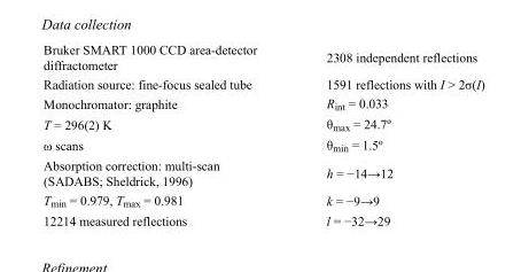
<table><tbody><tr><td>Bruker SMART 1000 CCD area-detector diffractometer</td><td>2308 independent reflections</td></tr><tr><td>Radiation source: fine-focus sealed tube</td><td>1591 reflections with I &gt; 2σ(I)</td></tr><tr><td>Monochromator: graphite</td><td>R<sub>int</sub> = 0.033</td></tr><tr><td>T = 296(2) K</td><td>θ<sub>max</sub> = 24.7º</td></tr><tr><td>ω scans</td><td>θ<sub>min</sub> = 1.5º</td></tr><tr><td>Absorption correction: multi-scan (SADABS; Sheldrick, 1996)</td><td>h = −14→12</td></tr><tr><td>T<sub>min</sub> = 0.979, T<sub>max</sub> = 0.981</td><td>k = −9→9</td></tr><tr><td>12214 measured reflections</td><td>l = −32→29</td></tr></tbody></table>